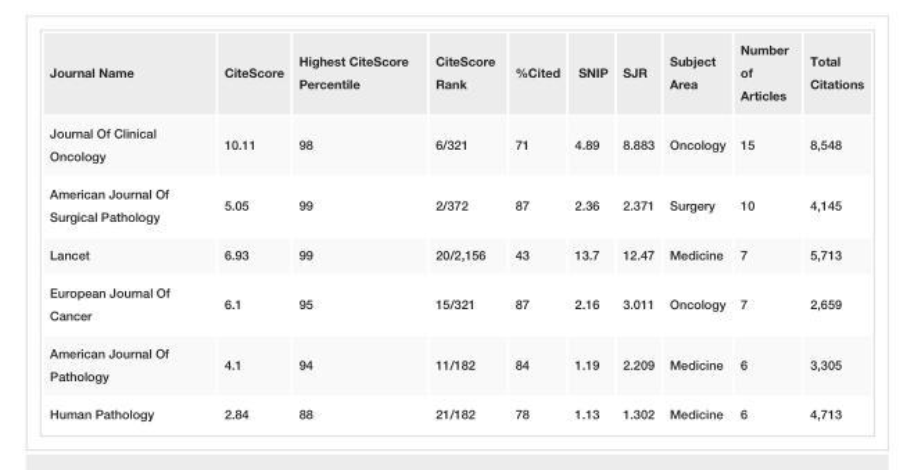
<table><tbody><tr><td>Journal Name</td><td>CiteScore</td><td>Highest CiteScore Percentile</td><td>CiteScore Rank</td><td>%Cited</td><td>SNIP</td><td>SJR</td><td>Subject Area</td><td>Number of Articles</td><td>Total Citations</td></tr><tr><td>Journal Of Clinical Oncology</td><td>10.11</td><td>98</td><td>6/321</td><td>71</td><td>4.89</td><td>8.883</td><td>Oncology</td><td>15</td><td>8,548</td></tr><tr><td>American Journal Of Surgical Pathology</td><td>5.05</td><td>99</td><td>2/372</td><td>87</td><td>2.36</td><td>2.371</td><td>Surgery</td><td>10</td><td>4,145</td></tr><tr><td>Lancet</td><td>6.93</td><td>99</td><td>20/2,156</td><td>43</td><td>13.7</td><td>12.47</td><td>Medicine</td><td>7</td><td>5,713</td></tr><tr><td>European Journal Of Cancer</td><td>6.1</td><td>95</td><td>15/321</td><td>87</td><td>2.16</td><td>3.011</td><td>Oncology</td><td>7</td><td>2,659</td></tr><tr><td>American Journal Of Pathology</td><td>4.1</td><td>94</td><td>11/182</td><td>84</td><td>1.19</td><td>2.209</td><td>Medicine</td><td>6</td><td>3,305</td></tr><tr><td>Human Pathology</td><td>2.84</td><td>88</td><td>21/182</td><td>78</td><td>1.13</td><td>1.302</td><td>Medicine</td><td>6</td><td>4,713</td></tr></tbody></table>